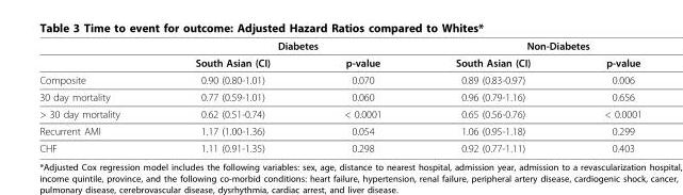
<table><thead><tr><td rowspan="2"></td><td colspan="2">Diabetes</td><td colspan="2">Non-Diabetes</td></tr><tr><td>South Asian (CI)</td><td>p-value</td><td>South Asian (CI)</td><td>p-value</td></tr></thead><tbody><tr><td>Composite</td><td>0.90 (0.80-1.01)</td><td>0.070</td><td>0.89 (0.83-0.97)</td><td>0.006</td></tr><tr><td>30 day mortality</td><td>0.77 (0.59-1.01)</td><td>0.060</td><td>0.96 (0.79-1.16)</td><td>0.656</td></tr><tr><td>&gt; 30 day mortality</td><td>0.62 (0.51-0.74)</td><td>&lt; 0.0001</td><td>0.65 (0.56-0.76)</td><td>&lt; 0.0001</td></tr><tr><td>Recurrent AMI</td><td>1.17 (1.00-1.36)</td><td>0.054</td><td>1.06 (0.95-1.18)</td><td>0.299</td></tr><tr><td>CHF</td><td>1.11 (0.91-1.35)</td><td>0.298</td><td>0.92 (0.77-1.11)</td><td>0.403</td></tr></tbody></table>